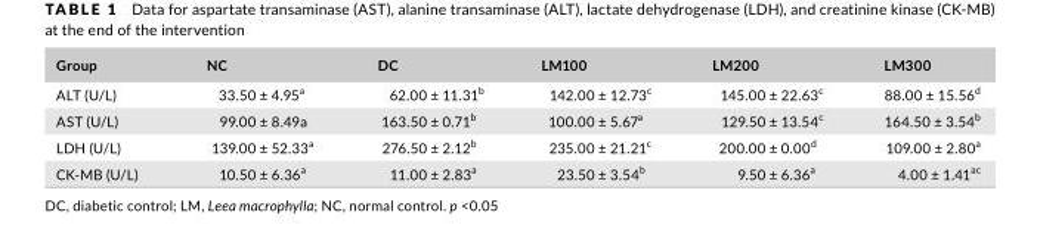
<table><thead><tr><td>Group</td><td>NC</td><td>DC</td><td>LM100</td><td>LM200</td><td>LM300</td></tr></thead><tbody><tr><td>ALT (U/L)</td><td>33.50 ± 4.95<sup>a</sup></td><td>62.00 ± 11.31<sup>b</sup></td><td>142.00 ± 12.73<sup>c</sup></td><td>145.00 ± 22.63<sup>c</sup></td><td>88.00 ± 15.56<sup>d</sup></td></tr><tr><td>AST (U/L)</td><td>99.00 ± 8.49a</td><td>163.50 ± 0.71<sup>b</sup></td><td>100.00 ± 5.67<sup>a</sup></td><td>129.50 ± 13.54<sup>c</sup></td><td>164.50 ± 3.54<sup>b</sup></td></tr><tr><td>LDH (U/L)</td><td>139.00 ± 52.33<sup>a</sup></td><td>276.50 ± 2.12<sup>b</sup></td><td>235.00 ± 21.21<sup>c</sup></td><td>200.00 ± 0.00<sup>d</sup></td><td>109.00 ± 2.80<sup>a</sup></td></tr><tr><td>CK- MB (U/L)</td><td>10.50 ± 6.36<sup>a</sup></td><td>11.00 ± 2.83<sup>a</sup></td><td>23.50 ± 3.54<sup>b</sup></td><td>9.50 ± 6.36<sup>a</sup></td><td>4.00 ± 1.41<sup>ac</sup></td></tr></tbody></table>